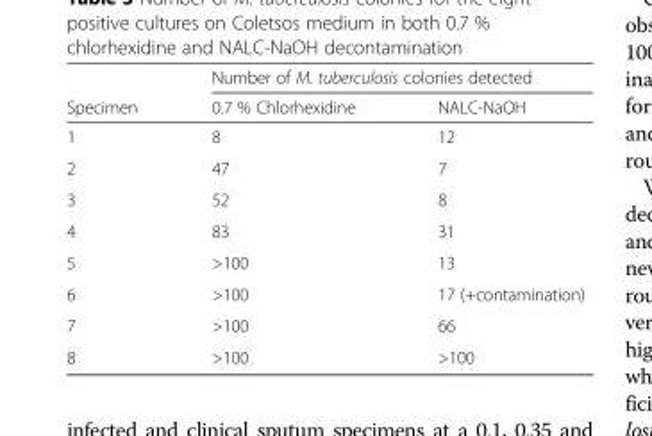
<table><thead><tr><td rowspan="2">Specimen</td><td colspan="2">Number of M. tuberculosis colonies detected</td></tr><tr><td>0.7 % Chlorhexidine</td><td>NALC-NaOH</td></tr></thead><tbody><tr><td>1</td><td>8</td><td>12</td></tr><tr><td>2</td><td>47</td><td>7</td></tr><tr><td>3</td><td>52</td><td>8</td></tr><tr><td>4</td><td>83</td><td>31</td></tr><tr><td>5</td><td>&gt;100</td><td>13</td></tr><tr><td>6</td><td>&gt;100</td><td>17 (+contamination)</td></tr><tr><td>7</td><td>&gt;100</td><td>66</td></tr><tr><td>8</td><td>&gt;100</td><td>&gt;100</td></tr></tbody></table>